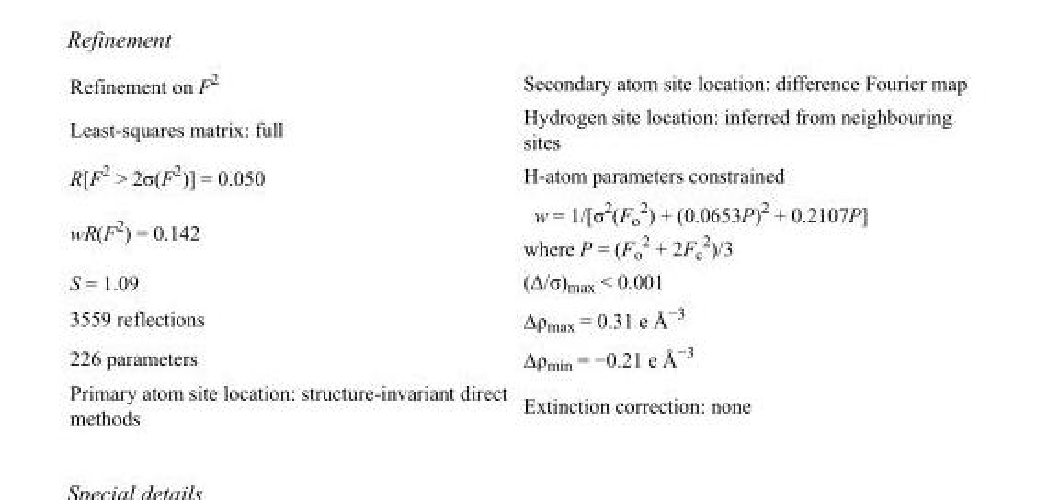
<table><tbody><tr><td>Refinement on F<sup>2</sup></td><td>Secondary atom site location: difference Fourier map</td></tr><tr><td>Least-squares matrix: full</td><td>Hydrogen site location: inferred from neighbouring sites</td></tr><tr><td>R[F<sup>2</sup> &gt; 2σ(F<sup>2</sup>)] = 0.050</td><td>H-atom parameters constrained</td></tr><tr><td>wR(F<sup>2</sup>) = 0.142</td><td>w = 1/[σ<sup>2</sup>(F<sub>o</sub> <sup>2</sup>) + (0.0653P)<sup>2</sup> + 0.2107P] where P = (F<sub>o</sub> <sup>2</sup> + 2F<sub>c</sub> <sup>2</sup>)/3</td></tr><tr><td>S = 1.09</td><td>(Δ/σ)<sub>max</sub> &lt; 0.001</td></tr><tr><td>3559 reflections</td><td>Δρ<sub>max</sub> = 0.31 e Å<sup>−3</sup></td></tr><tr><td>226 parameters</td><td>Δρ<sub>min</sub> = −0.21 e Å<sup>−3</sup></td></tr><tr><td>Primary atom site location: structure-invariant direct methods</td><td>Extinction correction: none</td></tr></tbody></table>